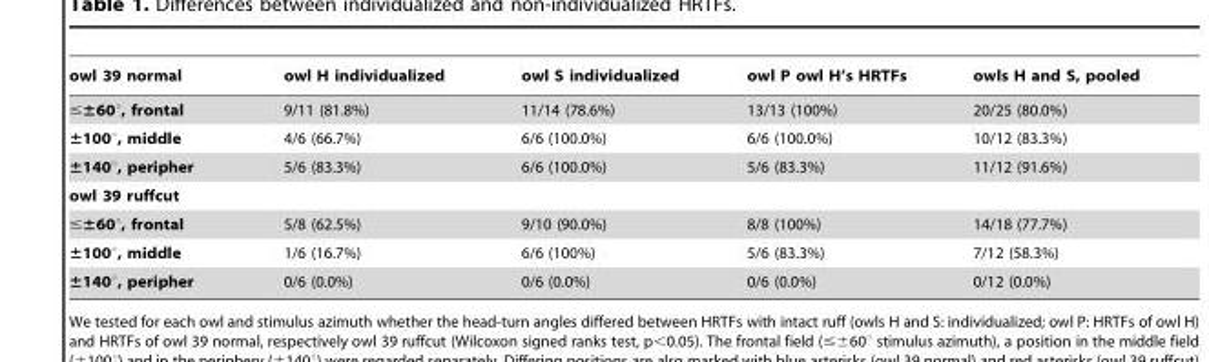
<table><thead><tr><td>owl 39 normal</td><td>owl H individualized</td><td>owl S individualized</td><td>owl P owl H’s HRTFs</td><td>owls H and S, pooled</td></tr></thead><tbody><tr><td>≤±60°, frontal</td><td>9/11 (81.8%)</td><td>11/14 (78.6%)</td><td>13/13 (100%)</td><td>20/25 (80.0%)</td></tr><tr><td>±100°, middle</td><td>4/6 (66.7%)</td><td>6/6 (100.0%)</td><td>6/6 (100.0%)</td><td>10/12 (83.3%)</td></tr><tr><td>±140°, peripher</td><td>5/6 (83.3%)</td><td>6/6 (100.0%)</td><td>5/6 (83.3%)</td><td>11/12 (91.6%)</td></tr><tr><td colspan="5">owl 39 ruffcut</td></tr><tr><td>≤±60°, frontal</td><td>5/8 (62.5%)</td><td>9/10 (90.0%)</td><td>8/8 (100%)</td><td>14/18 (77.7%)</td></tr><tr><td>±100°, middle</td><td>1/6 (16.7%)</td><td>6/6 (100%)</td><td>5/6 (83.3%)</td><td>7/12 (58.3%)</td></tr><tr><td>±140°, peripher</td><td>0/6 (0.0%)</td><td>0/6 (0.0%)</td><td>0/6 (0.0%)</td><td>0/12 (0.0%)</td></tr></tbody></table>